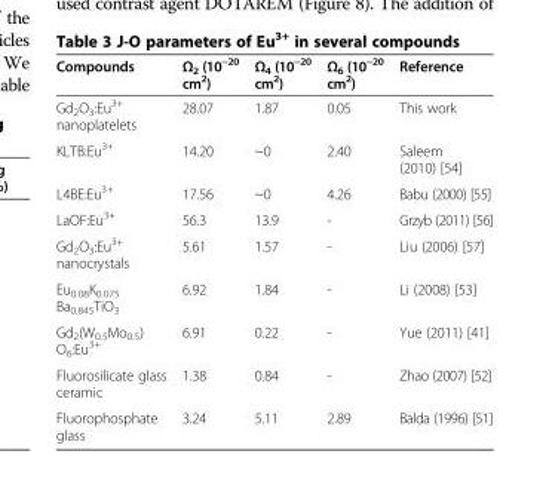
<table><thead><tr><td>Compounds</td><td>Ω<sub>2</sub> (10<sup>−20</sup> cm<sup>2</sup>)</td><td>Ω<sub>4</sub> (10<sup>−20</sup> cm<sup>2</sup>)</td><td>Ω<sub>6</sub> (10<sup>−20</sup> cm<sup>2</sup>)</td><td>Reference</td></tr></thead><tbody><tr><td>Gd<sub>2</sub>O<sub>3</sub>:Eu<sup>3+</sup> nanoplatelets</td><td>28.07</td><td>1.87</td><td>0.05</td><td>This work</td></tr><tr><td>KLTB:Eu<sup>3+</sup></td><td>14.20</td><td>~0</td><td>2.40</td><td>Saleem (2010) [54]</td></tr><tr><td>L4BE:Eu<sup>3+</sup></td><td>17.56</td><td>~0</td><td>4.26</td><td>Babu (2000) [55]</td></tr><tr><td>LaOF:Eu<sup>3+</sup></td><td>56.3</td><td>13.9</td><td>-</td><td>Grzyb (2011) [56]</td></tr><tr><td>Gd<sub>2</sub>O<sub>3</sub>:Eu<sup>3+</sup> nanocrystals</td><td>5.61</td><td>1.57</td><td>-</td><td>Liu (2006) [57]</td></tr><tr><td>Eu<sub>0.08</sub>K<sub>0.075</sub> Ba<sub>0.845</sub>TiO<sub>3</sub></td><td>6.92</td><td>1.84</td><td>-</td><td>Li (2008) [53]</td></tr><tr><td>Gd<sub>2</sub>(W<sub>0.5</sub>Mo<sub>0.5</sub>) O<sub>6</sub>:Eu<sup>3+</sup></td><td>6.91</td><td>0.22</td><td>-</td><td>Yue (2011) [41]</td></tr><tr><td>Fluorosilicate glass ceramic</td><td>1.38</td><td>0.84</td><td>-</td><td>Zhao (2007) [52]</td></tr><tr><td>Fluorophosphate glass</td><td>3.24</td><td>5.11</td><td>2.89</td><td>Balda (1996) [51]</td></tr></tbody></table>